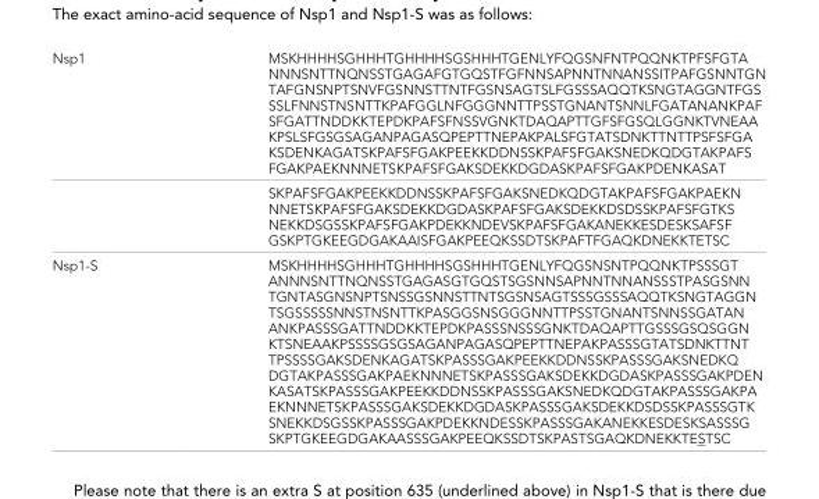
<table><tbody><tr><td rowspan="2">Nsp1</td><td>MSKHHHHSGHHHTGHHHHSGSHHHTGENLYFQGSNFNTPQQNKTPFSFGTA NNNSNTTNQNSSTGAGAFGTGQSTFGFNNSAPNNTNNANSSITPAFGSNNTGN TAFGNSNPTSNVFGSNNSTTNTFGSNSAGTSLFGSSSAQQTKSNGTAGGNTFGS SSLFNNSTNSNTTKPAFGGLNFGGGNNTTPSSTGNANTSNNLFGATANANKPAF SFGATTNDDKKTEPDKPAFSFNSSVGNKTDAQAPTTGFSFGSQLGGNKTVNEAA KPSLSFGSGSAGANPAGASQPEPTTNEPAKPALSFGTATSDNKTTNTTPSFSFGA KSDENKAGATSKPAFSFGAKPEEKKDDNSSKPAFSFGAKSNEDKQDGTAKPAFS FGAKPAEKNNNETSKPAFSFGAKSDEKKDGDASKPAFSFGAKPDENKASAT</td></tr><tr><td>SKPAFSFGAKPEEKKDDNSSKPAFSFGAKSNEDKQDGTAKPAFSFGAKPAEKN NNETSKPAFSFGAKSDEKKDGDASKPAFSFGAKSDEKKDSDSSKPAFSFGTKS NEKKDSGSSKPAFSFGAKPDEKKNDEVSKPAFSFGAKANEKKESDESKSAFSF GSKPTGKEEGDGAKAAISFGAKPEEQKSSDTSKPAFTFGAQKDNEKKTETSC</td></tr><tr><td>Nsp1-S</td><td>MSKHHHHSGHHHTGHHHHSGSHHHTGENLYFQGSNSNTPQQNKTPSSSGT ANNNSNTTNQNSSTGAGASGTGQSTSGSNNSAPNNTNNANSSSTPASGSNN TGNTASGNSNPTSNSSGSNNSTTNTSGSNSAGTSSSGSSSAQQTKSNGTAGGN TSGSSSSSNNSTNSNTTKPASGGSNSGGGNNTTPSSTGNANTSNNSSGATAN ANKPASSSGATTNDDKKTEPDKPASSSNSSSGNKTDAQAPTTGSSSGSQSGGN KTSNEAAKPSSSSGSGSAGANPAGASQPEPTTNEPAKPASSSGTATSDNKTTNT TPSSSSGAKSDENKAGATSKPASSSGAKPEEKKDDNSSKPASSSGAKSNEDKQ DGTAKPASSSGAKPAEKNNNETSKPASSSGAKSDEKKDGDASKPASSSGAKPDEN KASATSKPASSSGAKPEEKKDDNSSKPASSSGAKSNEDKQDGTAKPASSSGAKPA EKNNNETSKPASSSGAKSDEKKDGDASKPASSSGAKSDEKKDSDSSKPASSSGTK SNEKKDSGSSKPASSSGAKPDEKKNDESSKPASSSGAKANEKKESDESKSASSSG SKPTGKEEGDGAKAASSSGAKPEEQKSSDTSKPASTSGAQKDNEKKTESTSC</td></tr></tbody></table>